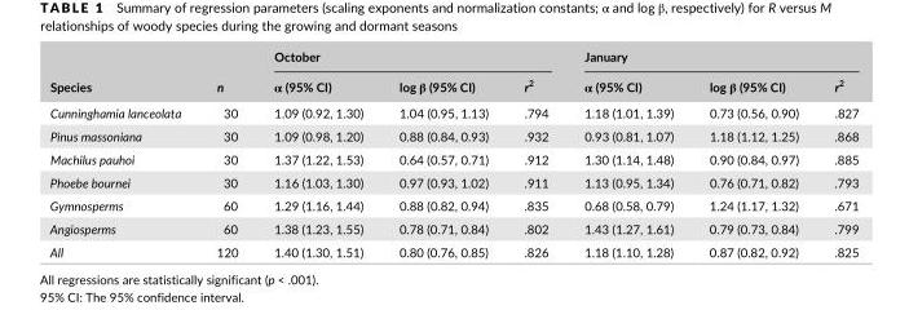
<table><thead><tr><td rowspan="2">Species</td><td rowspan="2">n</td><td colspan="3">October</td><td colspan="3">January</td></tr><tr><td>α (95% CI)</td><td>log β (95% CI)</td><td>r<sup>2</sup></td><td>α (95% CI)</td><td>log β (95% CI)</td><td>r<sup>2</sup></td></tr></thead><tbody><tr><td>Cunninghamia lanceolata</td><td>30</td><td>1.09 (0.92, 1.30)</td><td>1.04 (0.95, 1.13)</td><td>.794</td><td>1.18 (1.01, 1.39)</td><td>0.73 (0.56, 0.90)</td><td>.827</td></tr><tr><td>Pinus massoniana</td><td>30</td><td>1.09 (0.98, 1.20)</td><td>0.88 (0.84, 0.93)</td><td>.932</td><td>0.93 (0.81, 1.07)</td><td>1.18 (1.12, 1.25)</td><td>.868</td></tr><tr><td>Machilus pauhoi</td><td>30</td><td>1.37 (1.22, 1.53)</td><td>0.64 (0.57, 0.71)</td><td>.912</td><td>1.30 (1.14, 1.48)</td><td>0.90 (0.84, 0.97)</td><td>.885</td></tr><tr><td>Phoebe bournei</td><td>30</td><td>1.16 (1.03, 1.30)</td><td>0.97 (0.93, 1.02)</td><td>.911</td><td>1.13 (0.95, 1.34)</td><td>0.76 (0.71, 0.82)</td><td>.793</td></tr><tr><td>Gymnosperms</td><td>60</td><td>1.29 (1.16, 1.44)</td><td>0.88 (0.82, 0.94)</td><td>.835</td><td>0.68 (0.58, 0.79)</td><td>1.24 (1.17, 1.32)</td><td>.671</td></tr><tr><td>Angiosperms</td><td>60</td><td>1.38 (1.23, 1.55)</td><td>0.78 (0.71, 0.84)</td><td>.802</td><td>1.43 (1.27, 1.61)</td><td>0.79 (0.73, 0.84)</td><td>.799</td></tr><tr><td>All</td><td>120</td><td>1.40 (1.30, 1.51)</td><td>0.80 (0.76, 0.85)</td><td>.826</td><td>1.18 (1.10, 1.28)</td><td>0.87 (0.82, 0.92)</td><td>.825</td></tr></tbody></table>